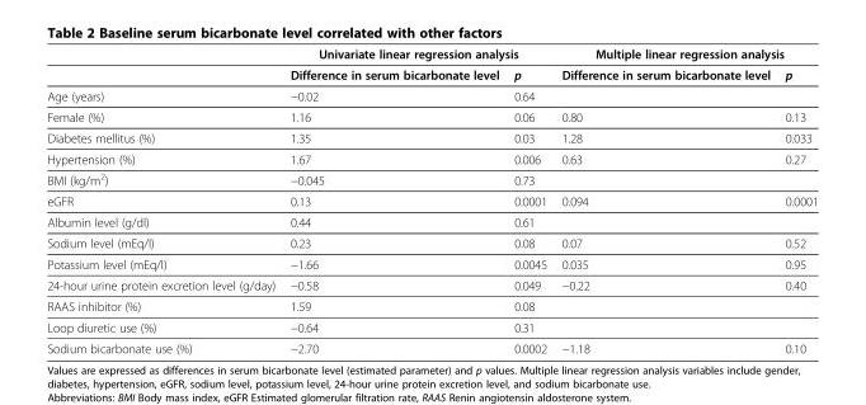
<table><thead><tr><td rowspan="2"></td><td colspan="2">Univariate linear regression analysis</td><td colspan="2">Multiple linear regression analysis</td></tr><tr><td>Difference in serum bicarbonate level</td><td>p</td><td>Difference in serum bicarbonate level</td><td>p</td></tr></thead><tbody><tr><td>Age (years)</td><td>−0.02</td><td>0.64</td><td></td><td></td></tr><tr><td>Female (%)</td><td>1.16</td><td>0.06</td><td>0.80</td><td>0.13</td></tr><tr><td>Diabetes mellitus (%)</td><td>1.35</td><td>0.03</td><td>1.28</td><td>0.033</td></tr><tr><td>Hypertension (%)</td><td>1.67</td><td>0.006</td><td>0.63</td><td>0.27</td></tr><tr><td>BMI (kg/m<sup>2</sup>)</td><td>−0.045</td><td>0.73</td><td></td><td></td></tr><tr><td>eGFR</td><td>0.13</td><td>0.0001</td><td>0.094</td><td>0.0001</td></tr><tr><td>Albumin level (g/dl)</td><td>0.44</td><td>0.61</td><td></td><td></td></tr><tr><td>Sodium level (mEq/l)</td><td>0.23</td><td>0.08</td><td>0.07</td><td>0.52</td></tr><tr><td>Potassium level (mEq/l)</td><td>−1.66</td><td>0.0045</td><td>0.035</td><td>0.95</td></tr><tr><td>24-hour urine protein excretion level (g/day)</td><td>−0.58</td><td>0.049</td><td>−0.22</td><td>0.40</td></tr><tr><td>RAAS inhibitor (%)</td><td>1.59</td><td>0.08</td><td></td><td></td></tr><tr><td>Loop diuretic use (%)</td><td>−0.64</td><td>0.31</td><td></td><td></td></tr><tr><td>Sodium bicarbonate use (%)</td><td>−2.70</td><td>0.0002</td><td>−1.18</td><td>0.10</td></tr></tbody></table>